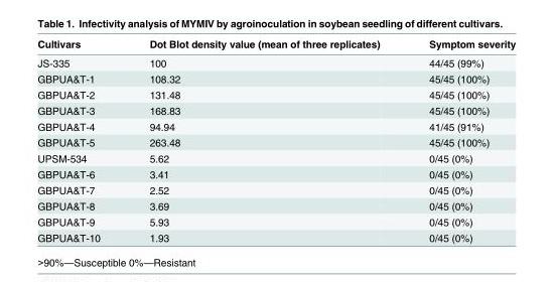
<table><thead><tr><td>Cultivars</td><td>Dot Blot density value (mean of three replicates)</td><td>Symptom severity</td></tr></thead><tbody><tr><td>JS-335</td><td>100</td><td>44/45 (99%)</td></tr><tr><td>GBPUA&amp;T-1</td><td>108.32</td><td>45/45 (100%)</td></tr><tr><td>GBPUA&amp;T-2</td><td>131.48</td><td>45/45 (100%)</td></tr><tr><td>GBPUA&amp;T-3</td><td>168.83</td><td>45/45 (100%)</td></tr><tr><td>GBPUA&amp;T-4</td><td>94.94</td><td>41/45 (91%)</td></tr><tr><td>GBPUA&amp;T-5</td><td>263.48</td><td>45/45 (100%)</td></tr><tr><td>UPSM-534</td><td>5.62</td><td>0/45 (0%)</td></tr><tr><td>GBPUA&amp;T-6</td><td>3.41</td><td>0/45 (0%)</td></tr><tr><td>GBPUA&amp;T-7</td><td>2.52</td><td>0/45 (0%)</td></tr><tr><td>GBPUA&amp;T-8</td><td>3.69</td><td>0/45 (0%)</td></tr><tr><td>GBPUA&amp;T-9</td><td>5.93</td><td>0/45 (0%)</td></tr><tr><td>GBPUA&amp;T-10</td><td>1.93</td><td>0/45 (0%)</td></tr></tbody></table>